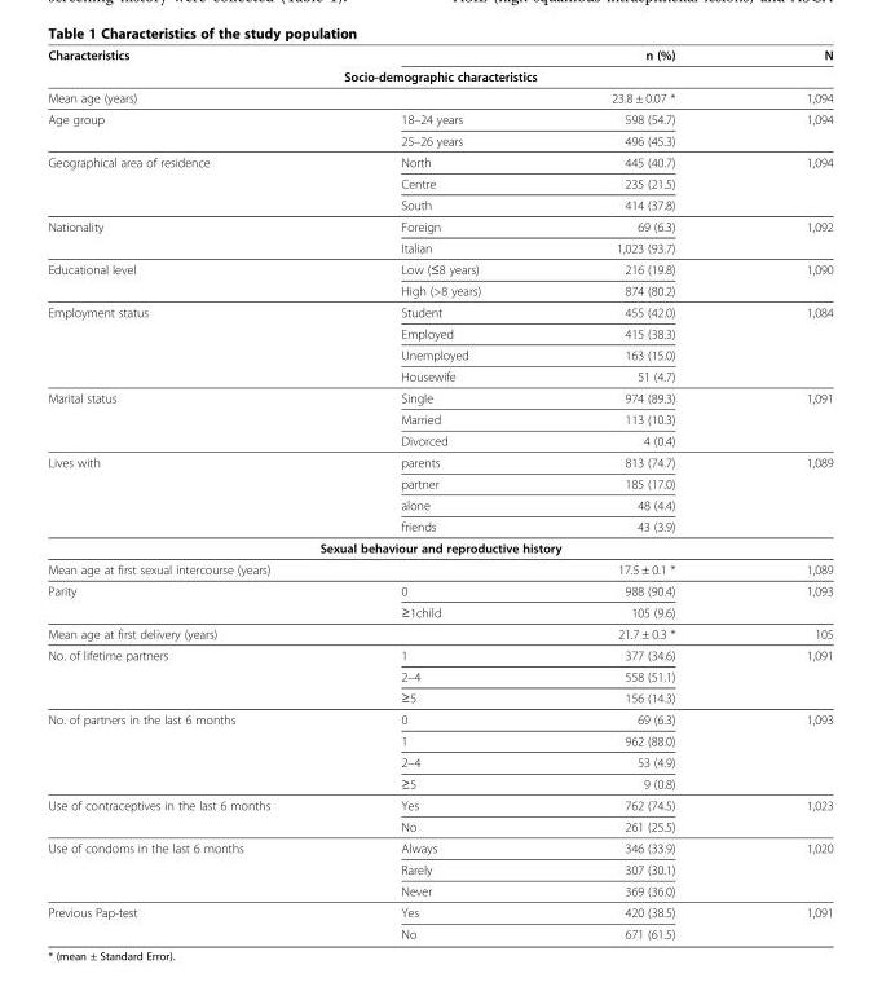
<table><thead><tr><td>Characteristics</td><td></td><td>n (%)</td><td>N</td></tr></thead><tbody><tr><td colspan="4">Socio-demographic characteristics</td></tr><tr><td>Mean age (years)</td><td></td><td>23.8 ± 0.07 *</td><td>1,094</td></tr><tr><td rowspan="2">Age group</td><td>18–24 years</td><td>598 (54.7)</td><td>1,094</td></tr><tr><td>25–26 years</td><td>496 (45.3)</td><td></td></tr><tr><td rowspan="3">Geographical area of residence</td><td>North</td><td>445 (40.7)</td><td>1,094</td></tr><tr><td>Centre</td><td>235 (21.5)</td><td></td></tr><tr><td>South</td><td>414 (37.8)</td><td></td></tr><tr><td rowspan="2">Nationality</td><td>Foreign</td><td>69 (6.3)</td><td>1,092</td></tr><tr><td>Italian</td><td>1,023 (93.7)</td><td></td></tr><tr><td rowspan="2">Educational level</td><td>Low (≤8 years)</td><td>216 (19.8)</td><td>1,090</td></tr><tr><td>High (&gt;8 years)</td><td>874 (80.2)</td><td></td></tr><tr><td rowspan="4">Employment status</td><td>Student</td><td>455 (42.0)</td><td>1,084</td></tr><tr><td>Employed</td><td>415 (38.3)</td><td></td></tr><tr><td>Unemployed</td><td>163 (15.0)</td><td></td></tr><tr><td>Housewife</td><td>51 (4.7)</td><td></td></tr><tr><td rowspan="3">Marital status</td><td>Single</td><td>974 (89.3)</td><td>1,091</td></tr><tr><td>Married</td><td>113 (10.3)</td><td></td></tr><tr><td>Divorced</td><td>4 (0.4)</td><td></td></tr><tr><td rowspan="4">Lives with</td><td>parents</td><td>813 (74.7)</td><td>1,089</td></tr><tr><td>partner</td><td>185 (17.0)</td><td></td></tr><tr><td>alone</td><td>48 (4.4)</td><td></td></tr><tr><td>friends</td><td>43 (3.9)</td><td></td></tr><tr><td colspan="4">Sexual behaviour and reproductive history</td></tr><tr><td>Mean age at first sexual intercourse (years)</td><td></td><td>17.5 ± 0.1 *</td><td>1,089</td></tr><tr><td rowspan="2">Parity</td><td>0</td><td>988 (90.4)</td><td>1,093</td></tr><tr><td>≥1child</td><td>105 (9.6)</td><td></td></tr><tr><td>Mean age at first delivery (years)</td><td></td><td>21.7 ± 0.3 *</td><td>105</td></tr><tr><td rowspan="3">No. of lifetime partners</td><td>1</td><td>377 (34.6)</td><td>1,091</td></tr><tr><td>2–4</td><td>558 (51.1)</td><td></td></tr><tr><td>≥5</td><td>156 (14.3)</td><td></td></tr><tr><td rowspan="4">No. of partners in the last 6 months</td><td>0</td><td>69 (6.3)</td><td>1,093</td></tr><tr><td>1</td><td>962 (88.0)</td><td></td></tr><tr><td>2–4</td><td>53 (4.9)</td><td></td></tr><tr><td>≥5</td><td>9 (0.8)</td><td></td></tr><tr><td rowspan="2">Use of contraceptives in the last 6 months</td><td>Yes</td><td>762 (74.5)</td><td>1,023</td></tr><tr><td>No</td><td>261 (25.5)</td><td></td></tr><tr><td rowspan="3">Use of condoms in the last 6 months</td><td>Always</td><td>346 (33.9)</td><td>1,020</td></tr><tr><td>Rarely</td><td>307 (30.1)</td><td></td></tr><tr><td>Never</td><td>369 (36.0)</td><td></td></tr><tr><td rowspan="2">Previous Pap-test</td><td>Yes</td><td>420 (38.5)</td><td>1,091</td></tr><tr><td>No</td><td>671 (61.5)</td><td></td></tr></tbody></table>